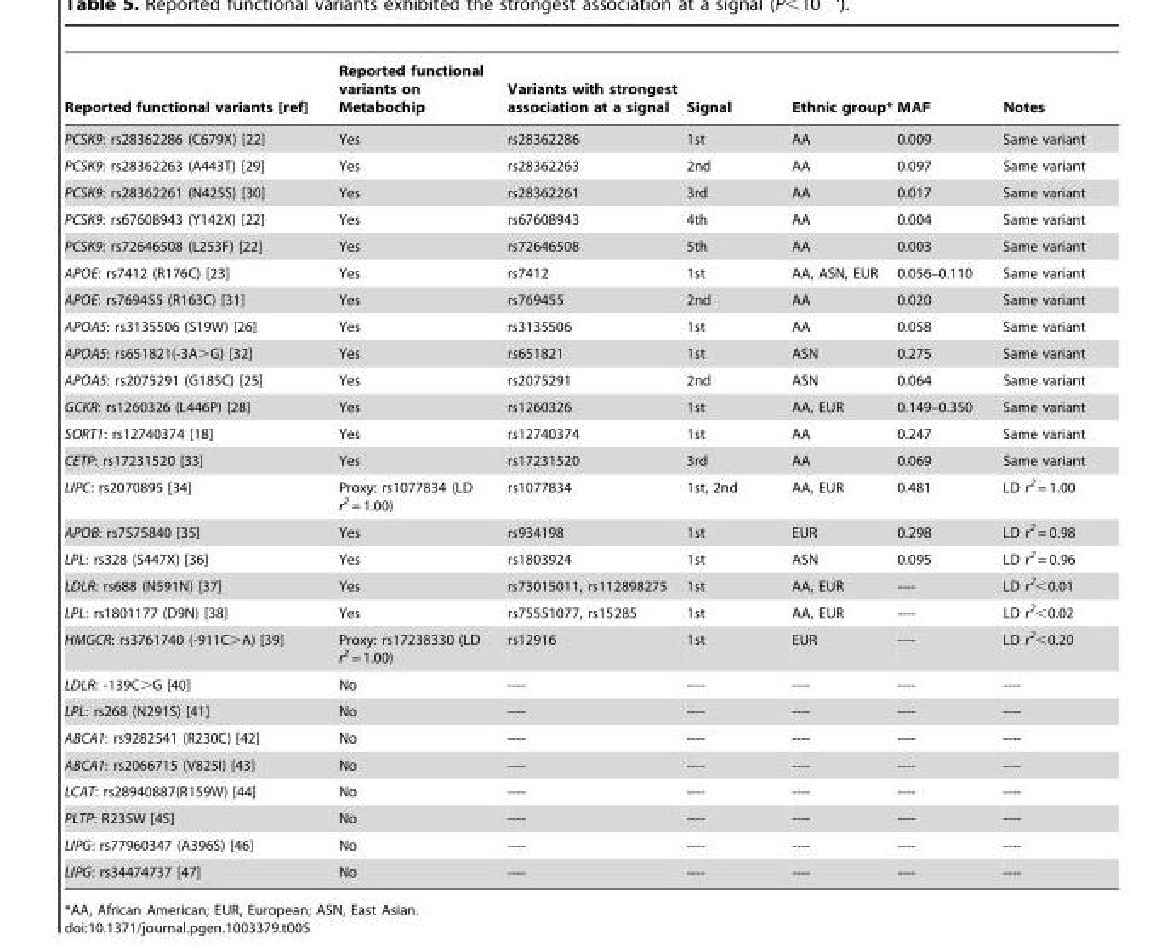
<table><thead><tr><td>Reported functional variants [ref]</td><td>Reported functional variants on Metabochip</td><td>Variants with strongest association at a signal</td><td>Signal</td><td>Ethnic group*</td><td>MAF</td><td>Notes</td></tr></thead><tbody><tr><td>PCSK9: rs28362286 (C679X) [22]</td><td>Yes</td><td>rs28362286</td><td>1st</td><td>AA</td><td>0.009</td><td>Same variant</td></tr><tr><td>PCSK9: rs28362263 (A443T) [29]</td><td>Yes</td><td>rs28362263</td><td>2nd</td><td>AA</td><td>0.097</td><td>Same variant</td></tr><tr><td>PCSK9: rs28362261 (N425S) [30]</td><td>Yes</td><td>rs28362261</td><td>3rd</td><td>AA</td><td>0.017</td><td>Same variant</td></tr><tr><td>PCSK9: rs67608943 (Y142X) [22]</td><td>Yes</td><td>rs67608943</td><td>4th</td><td>AA</td><td>0.004</td><td>Same variant</td></tr><tr><td>PCSK9: rs72646508 (L253F) [22]</td><td>Yes</td><td>rs72646508</td><td>5th</td><td>AA</td><td>0.003</td><td>Same variant</td></tr><tr><td>APOE: rs7412 (R176C) [23]</td><td>Yes</td><td>rs7412</td><td>1st</td><td>AA, ASN, EUR</td><td>0.056–0.110</td><td>Same variant</td></tr><tr><td>APOE: rs769455 (R163C) [31]</td><td>Yes</td><td>rs769455</td><td>2nd</td><td>AA</td><td>0.020</td><td>Same variant</td></tr><tr><td>APOA5: rs3135506 (S19W) [26]</td><td>Yes</td><td>rs3135506</td><td>1st</td><td>AA</td><td>0.058</td><td>Same variant</td></tr><tr><td>APOA5: rs651821(-3A&gt;G) [32]</td><td>Yes</td><td>rs651821</td><td>1st</td><td>ASN</td><td>0.275</td><td>Same variant</td></tr><tr><td>APOA5: rs2075291 (G185C) [25]</td><td>Yes</td><td>rs2075291</td><td>2nd</td><td>ASN</td><td>0.064</td><td>Same variant</td></tr><tr><td>GCKR: rs1260326 (L446P) [28]</td><td>Yes</td><td>rs1260326</td><td>1st</td><td>AA, EUR</td><td>0.149–0.350</td><td>Same variant</td></tr><tr><td>SORT1: rs12740374 [18]</td><td>Yes</td><td>rs12740374</td><td>1st</td><td>AA</td><td>0.247</td><td>Same variant</td></tr><tr><td>CETP: rs17231520 [33]</td><td>Yes</td><td>rs17231520</td><td>3rd</td><td>AA</td><td>0.069</td><td>Same variant</td></tr><tr><td>LIPC: rs2070895 [34]</td><td>Proxy: rs1077834 (LD r<sup>2</sup> = 1.00)</td><td>rs1077834</td><td>1st, 2nd</td><td>AA, EUR</td><td>0.481</td><td>LD r<sup>2</sup> = 1.00</td></tr><tr><td>APOB: rs7575840 [35]</td><td>Yes</td><td>rs934198</td><td>1st</td><td>EUR</td><td>0.298</td><td>LD r<sup>2</sup> = 0.98</td></tr><tr><td>LPL: rs328 (S447X) [36]</td><td>Yes</td><td>rs1803924</td><td>1st</td><td>ASN</td><td>0.095</td><td>LD r<sup>2</sup> = 0.96</td></tr><tr><td>LDLR: rs688 (N591N) [37]</td><td>Yes</td><td>rs73015011, rs112898275</td><td>1st</td><td>AA, EUR</td><td>----</td><td>LD r<sup>2</sup>&lt;0.01</td></tr><tr><td>LPL: rs1801177 (D9N) [38]</td><td>Yes</td><td>rs75551077, rs15285</td><td>1st</td><td>AA, EUR</td><td>----</td><td>LD r<sup>2</sup>&lt;0.02</td></tr><tr><td>HMGCR: rs3761740 (-911C&gt;A) [39]</td><td>Proxy: rs17238330 (LD r<sup>2</sup> = 1.00)</td><td>rs12916</td><td>1st</td><td>EUR</td><td>----</td><td>LD r<sup>2</sup>&lt;0.20</td></tr><tr><td>LDLR: -139C&gt;G [40]</td><td>No</td><td>----</td><td>----</td><td>----</td><td>----</td><td>----</td></tr><tr><td>LPL: rs268 (N291S) [41]</td><td>No</td><td>----</td><td>----</td><td>----</td><td>----</td><td>----</td></tr><tr><td>ABCA1: rs9282541 (R230C) [42]</td><td>No</td><td>----</td><td>----</td><td>----</td><td>----</td><td>----</td></tr><tr><td>ABCA1: rs2066715 (V825I) [43]</td><td>No</td><td>----</td><td>----</td><td>----</td><td>----</td><td>----</td></tr><tr><td>LCAT: rs28940887(R159W) [44]</td><td>No</td><td>----</td><td>----</td><td>----</td><td>----</td><td>----</td></tr><tr><td>PLTP: R235W [45]</td><td>No</td><td>----</td><td>----</td><td>----</td><td>----</td><td>----</td></tr><tr><td>LIPG: rs77960347 (A396S) [46]</td><td>No</td><td>----</td><td>----</td><td>----</td><td>----</td><td>----</td></tr><tr><td>LIPG: rs34474737 [47]</td><td>No</td><td>----</td><td>----</td><td>----</td><td>----</td><td>----</td></tr></tbody></table>